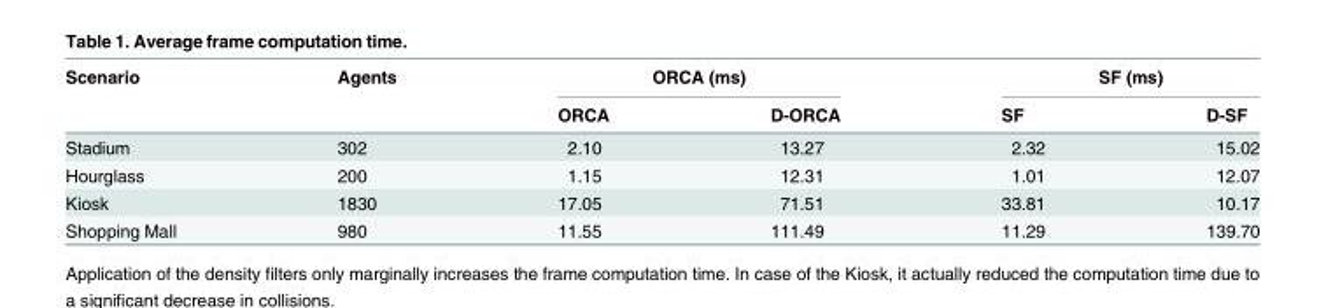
<table><thead><tr><td rowspan="2">Scenario</td><td rowspan="2">Agents</td><td colspan="2">ORCA (ms)</td><td colspan="2">SF (ms)</td></tr><tr><td>ORCA</td><td>D-ORCA</td><td>SF</td><td>D-SF</td></tr></thead><tbody><tr><td>Stadium</td><td>302</td><td>2.10</td><td>13.27</td><td>2.32</td><td>15.02</td></tr><tr><td>Hourglass</td><td>200</td><td>1.15</td><td>12.31</td><td>1.01</td><td>12.07</td></tr><tr><td>Kiosk</td><td>1830</td><td>17.05</td><td>71.51</td><td>33.81</td><td>10.17</td></tr><tr><td>Shopping Mall</td><td>980</td><td>11.55</td><td>111.49</td><td>11.29</td><td>139.70</td></tr></tbody></table>